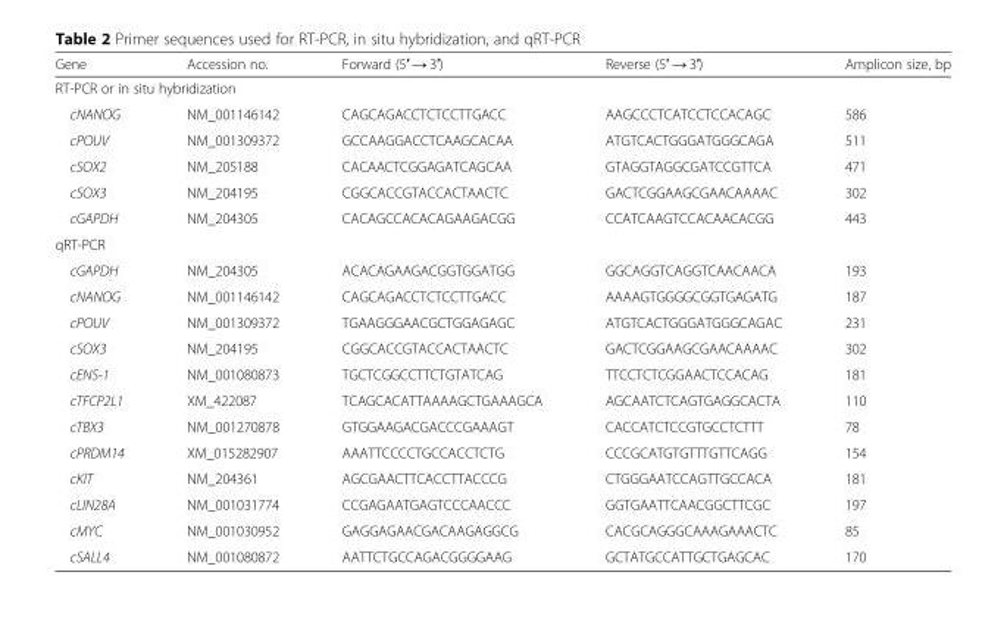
<table><thead><tr><td>Gene</td><td>Accession no.</td><td>Forward (5′ → 3′)</td><td>Reverse (5′ → 3′)</td><td>Amplicon size, bp</td></tr></thead><tbody><tr><td colspan="5">RT-PCR or in situ hybridization</td></tr><tr><td>cNANOG</td><td>NM_001146142</td><td>CAGCAGACCTCTCCTTGACC</td><td>AAGCCCTCATCCTCCACAGC</td><td>586</td></tr><tr><td>cPOUV</td><td>NM_001309372</td><td>GCCAAGGACCTCAAGCACAA</td><td>ATGTCACTGGGATGGGCAGA</td><td>511</td></tr><tr><td>cSOX2</td><td>NM_205188</td><td>CACAACTCGGAGATCAGCAA</td><td>GTAGGTAGGCGATCCGTTCA</td><td>471</td></tr><tr><td>cSOX3</td><td>NM_204195</td><td>CGGCACCGTACCACTAACTC</td><td>GACTCGGAAGCGAACAAAAC</td><td>302</td></tr><tr><td>cGAPDH</td><td>NM_204305</td><td>CACAGCCACACAGAAGACGG</td><td>CCATCAAGTCCACAACACGG</td><td>443</td></tr><tr><td colspan="5">qRT-PCR</td></tr><tr><td>cGAPDH</td><td>NM_204305</td><td>ACACAGAAGACGGTGGATGG</td><td>GGCAGGTCAGGTCAACAACA</td><td>193</td></tr><tr><td>cNANOG</td><td>NM_001146142</td><td>CAGCAGACCTCTCCTTGACC</td><td>AAAAGTGGGGCGGTGAGATG</td><td>187</td></tr><tr><td>cPOUV</td><td>NM_001309372</td><td>TGAAGGGAACGCTGGAGAGC</td><td>ATGTCACTGGGATGGGCAGAC</td><td>231</td></tr><tr><td>cSOX3</td><td>NM_204195</td><td>CGGCACCGTACCACTAACTC</td><td>GACTCGGAAGCGAACAAAAC</td><td>302</td></tr><tr><td>cENS-1</td><td>NM_001080873</td><td>TGCTCGGCCTTCTGTATCAG</td><td>TTCCTCTCGGAACTCCACAG</td><td>181</td></tr><tr><td>cTFCP2L1</td><td>XM_422087</td><td>TCAGCACATTAAAAGCTGAAAGCA</td><td>AGCAATCTCAGTGAGGCACTA</td><td>110</td></tr><tr><td>cTBX3</td><td>NM_001270878</td><td>GTGGAAGACGACCCGAAAGT</td><td>CACCATCTCCGTGCCTCTTT</td><td>78</td></tr><tr><td>cPRDM14</td><td>XM_015282907</td><td>AAATTCCCCTGCCACCTCTG</td><td>CCCGCATGTGTTTGTTCAGG</td><td>154</td></tr><tr><td>cKIT</td><td>NM_204361</td><td>AGCGAACTTCACCTTACCCG</td><td>CTGGGAATCCAGTTGCCACA</td><td>181</td></tr><tr><td>cLIN28A</td><td>NM_001031774</td><td>CCGAGAATGAGTCCCAACCC</td><td>GGTGAATTCAACGGCTTCGC</td><td>197</td></tr><tr><td>cMYC</td><td>NM_001030952</td><td>GAGGAGAACGACAAGAGGCG</td><td>CACGCAGGGCAAAGAAACTC</td><td>85</td></tr><tr><td>cSALL4</td><td>NM_001080872</td><td>AATTCTGCCAGACGGGGAAG</td><td>GCTATGCCATTGCTGAGCAC</td><td>170</td></tr></tbody></table>